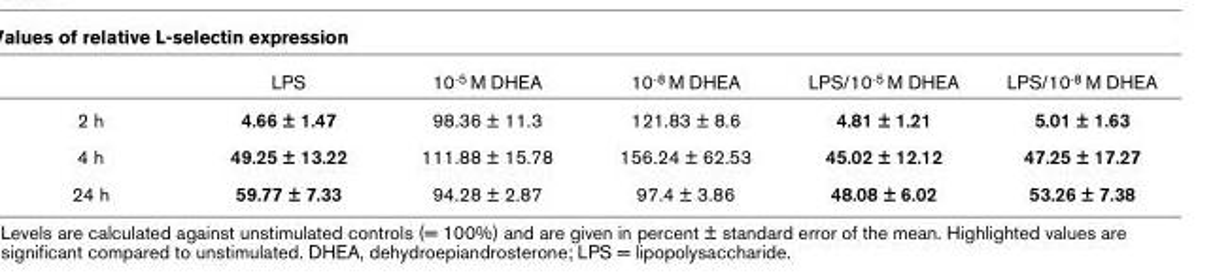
<table><thead><tr><td></td><td>LPS</td><td>10-5 M DHEA</td><td>10-8 M DHEA</td><td>LPS/10-5 M DHEA</td><td>LPS/10-8 M DHEA</td></tr></thead><tbody><tr><td>2 h</td><td>4.66 ± 1.47</td><td>98.36 ± 11.3</td><td>121.83 ± 8.6</td><td>4.81 ± 1.21</td><td>5.01 ± 1.63</td></tr><tr><td>4 h</td><td>49.25 ± 13.22</td><td>111.88 ± 15.78</td><td>156.24 ± 62.53</td><td>45.02 ± 12.12</td><td>47.25 ± 17.27</td></tr><tr><td>24 h</td><td>59.77 ± 7.33</td><td>94.28 ± 2.87</td><td>97.4 ± 3.86</td><td>48.08 ± 6.02</td><td>53.26 ± 7.38</td></tr></tbody></table>